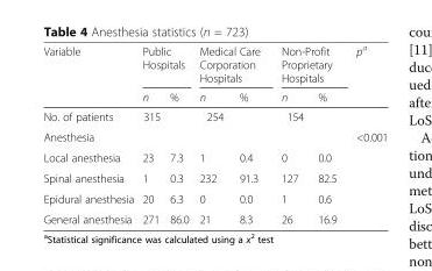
<table><thead><tr><td rowspan="2">Variable</td><td colspan="2">Public Hospitals</td><td colspan="2">Medical Care Corporation Hospitals</td><td colspan="2">Non-Profit Proprietary Hospitals</td><td rowspan="2">p<sup>a</sup></td></tr><tr><td>n</td><td>%</td><td>n</td><td>%</td><td>n</td><td>%</td></tr></thead><tbody><tr><td>No. of patients</td><td>315</td><td></td><td>254</td><td></td><td>154</td><td></td><td></td></tr><tr><td>Anesthesia</td><td></td><td></td><td></td><td></td><td></td><td></td><td>&lt;0.001</td></tr><tr><td>Local anesthesia</td><td>23</td><td>7.3</td><td>1</td><td>0.4</td><td>0</td><td>0.0</td><td></td></tr><tr><td>Spinal anesthesia</td><td>1</td><td>0.3</td><td>232</td><td>91.3</td><td>127</td><td>82.5</td><td></td></tr><tr><td>Epidural anesthesia</td><td>20</td><td>6.3</td><td>0</td><td>0.0</td><td>1</td><td>0.6</td><td></td></tr><tr><td>General anesthesia</td><td>271</td><td>86.0</td><td>21</td><td>8.3</td><td>26</td><td>16.9</td><td></td></tr></tbody></table>